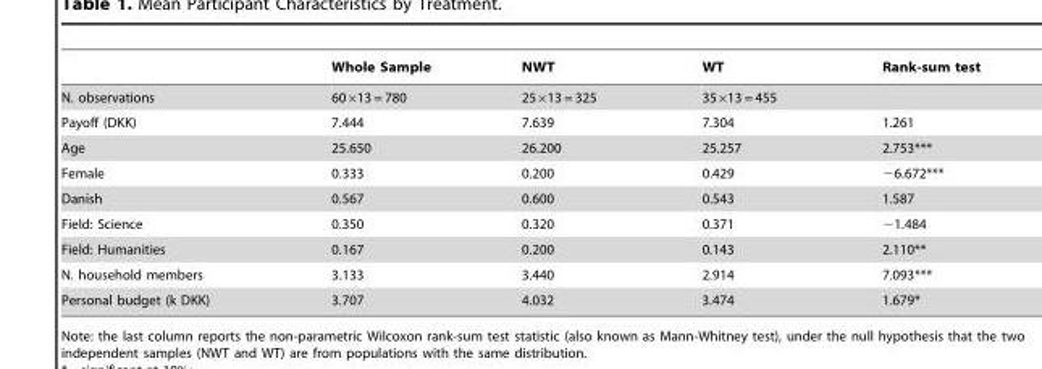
<table><thead><tr><td></td><td>Whole Sample</td><td>NWT</td><td>WT</td><td>Rank-sum test</td></tr></thead><tbody><tr><td>N. observations</td><td>60×13 = 780</td><td>25×13 = 325</td><td>35×13 = 455</td><td></td></tr><tr><td>Payoff (DKK)</td><td>7.444</td><td>7.639</td><td>7.304</td><td>1.261</td></tr><tr><td>Age</td><td>25.650</td><td>26.200</td><td>25.257</td><td>2.753***</td></tr><tr><td>Female</td><td>0.333</td><td>0.200</td><td>0.429</td><td>−6.672***</td></tr><tr><td>Danish</td><td>0.567</td><td>0.600</td><td>0.543</td><td>1.587</td></tr><tr><td>Field: Science</td><td>0.350</td><td>0.320</td><td>0.371</td><td>−1.484</td></tr><tr><td>Field: Humanities</td><td>0.167</td><td>0.200</td><td>0.143</td><td>2.110**</td></tr><tr><td>N. household members</td><td>3.133</td><td>3.440</td><td>2.914</td><td>7.093***</td></tr><tr><td>Personal budget (k DKK)</td><td>3.707</td><td>4.032</td><td>3.474</td><td>1.679*</td></tr></tbody></table>